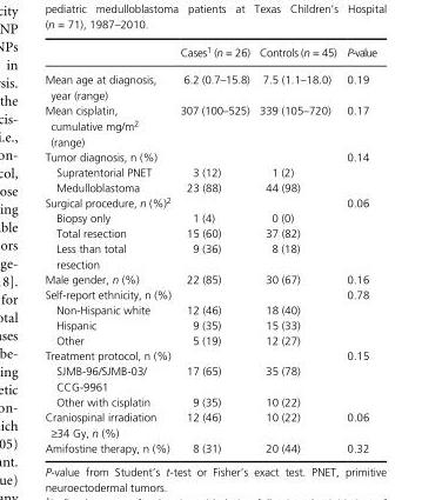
<table><thead><tr><td></td><td>Cases<sup>1</sup> (n = 26)</td><td>Controls (n = 45)</td><td>P- value</td></tr></thead><tbody><tr><td>Mean age at diagnosis, year (range)</td><td>6.2 (0.7–15.8)</td><td>7.5 (1.1–18.0)</td><td>0.19</td></tr><tr><td>Mean cisplatin, cumulative mg/m<sup>2</sup> (range)</td><td>307 (100–525)</td><td>339 (105–720)</td><td>0.17</td></tr><tr><td>Tumor diagnosis, n (%)</td><td></td><td></td><td>0.14</td></tr><tr><td>Supratentorial PNET</td><td>3 (12)</td><td>1 (2)</td><td></td></tr><tr><td>Medulloblastoma</td><td>23 (88)</td><td>44 (98)</td><td></td></tr><tr><td>Surgical procedure, n (%)<sup>2</sup></td><td></td><td></td><td>0.06</td></tr><tr><td>Biopsy only</td><td>1 (4)</td><td>0 (0)</td><td></td></tr><tr><td>Total resection</td><td>15 (60)</td><td>37 (82)</td><td></td></tr><tr><td>Less than total resection</td><td>9 (36)</td><td>8 (18)</td><td></td></tr><tr><td>Male gender, n (%)</td><td>22 (85)</td><td>30 (67)</td><td>0.16</td></tr><tr><td>Self- report ethnicity, n (%)</td><td></td><td></td><td>0.78</td></tr><tr><td>Non- Hispanic white</td><td>12 (46)</td><td>18 (40)</td><td></td></tr><tr><td>Hispanic</td><td>9 (35)</td><td>15 (33)</td><td></td></tr><tr><td>Other</td><td>5 (19)</td><td>12 (27)</td><td></td></tr><tr><td>Treatment protocol, n (%)</td><td></td><td></td><td>0.15</td></tr><tr><td>SJMB- 96/SJMB- 03/ CCG- 9961</td><td>17 (65)</td><td>35 (78)</td><td></td></tr><tr><td>Other with cisplatin</td><td>9 (35)</td><td>10 (22)</td><td></td></tr><tr><td>Craniospinal irradiation ≥34 Gy, n (%)</td><td>12 (46)</td><td>10 (22)</td><td>0.06</td></tr><tr><td>Amifostine therapy, n (%)</td><td>8 (31)</td><td>20 (44)</td><td>0.32</td></tr></tbody></table>